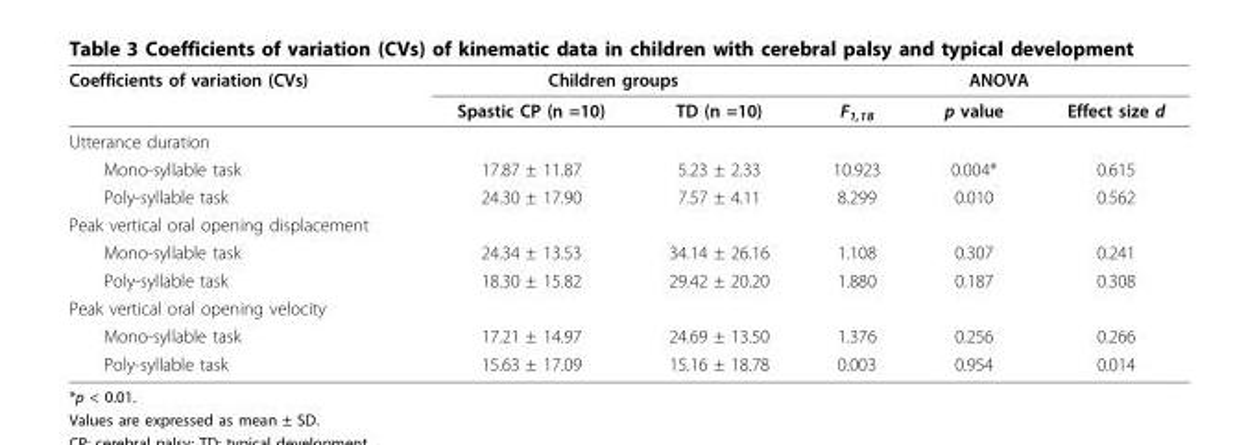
<table><thead><tr><td rowspan="2">Coefficients of variation (CVs)</td><td colspan="2">Children groups</td><td colspan="3">ANOVA</td></tr><tr><td>Spastic CP (n =10)</td><td>TD (n =10)</td><td>F<sub>1,18</sub></td><td>p value</td><td>Effect size d</td></tr></thead><tbody><tr><td colspan="6">Utterance duration</td></tr><tr><td>Mono-syllable task</td><td>17.87 ± 11.87</td><td>5.23 ± 2.33</td><td>10.923</td><td>0.004*</td><td>0.615</td></tr><tr><td>Poly-syllable task</td><td>24.30 ± 17.90</td><td>7.57 ± 4.11</td><td>8.299</td><td>0.010</td><td>0.562</td></tr><tr><td colspan="6">Peak vertical oral opening displacement</td></tr><tr><td>Mono-syllable task</td><td>24.34 ± 13.53</td><td>34.14 ± 26.16</td><td>1.108</td><td>0.307</td><td>0.241</td></tr><tr><td>Poly-syllable task</td><td>18.30 ± 15.82</td><td>29.42 ± 20.20</td><td>1.880</td><td>0.187</td><td>0.308</td></tr><tr><td colspan="6">Peak vertical oral opening velocity</td></tr><tr><td>Mono-syllable task</td><td>17.21 ± 14.97</td><td>24.69 ± 13.50</td><td>1.376</td><td>0.256</td><td>0.266</td></tr><tr><td>Poly-syllable task</td><td>15.63 ± 17.09</td><td>15.16 ± 18.78</td><td>0.003</td><td>0.954</td><td>0.014</td></tr></tbody></table>